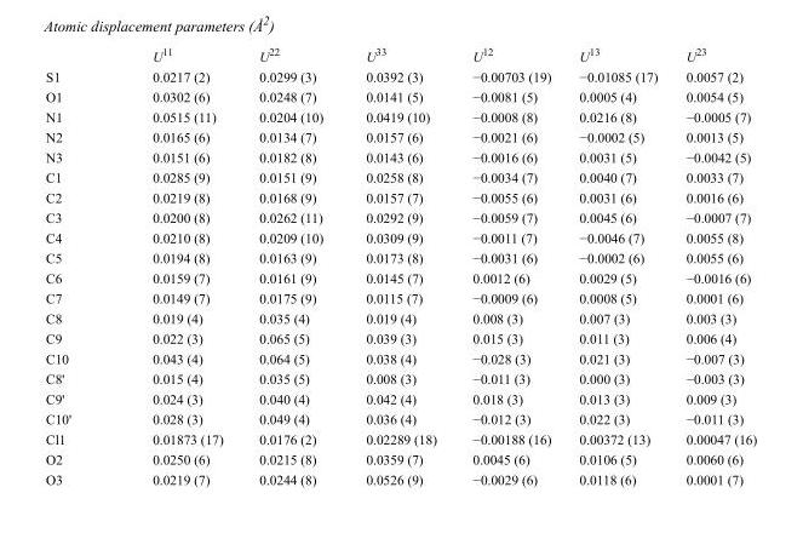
<table><thead><tr><td></td><td>U<sup>11</sup></td><td>U<sup>22</sup></td><td>U<sup>33</sup></td><td>U<sup>12</sup></td><td>U<sup>13</sup></td><td>U<sup>23</sup></td></tr></thead><tbody><tr><td>S1</td><td>0.0217 (2)</td><td>0.0299 (3)</td><td>0.0392 (3)</td><td>−0.00703 (19)</td><td>−0.01085 (17)</td><td>0.0057 (2)</td></tr><tr><td>O1</td><td>0.0302 (6)</td><td>0.0248 (7)</td><td>0.0141 (5)</td><td>−0.0081 (5)</td><td>0.0005 (4)</td><td>0.0054 (5)</td></tr><tr><td>N1</td><td>0.0515 (11)</td><td>0.0204 (10)</td><td>0.0419 (10)</td><td>−0.0008 (8)</td><td>0.0216 (8)</td><td>−0.0005 (7)</td></tr><tr><td>N2</td><td>0.0165 (6)</td><td>0.0134 (7)</td><td>0.0157 (6)</td><td>−0.0021 (6)</td><td>−0.0002 (5)</td><td>0.0013 (5)</td></tr><tr><td>N3</td><td>0.0151 (6)</td><td>0.0182 (8)</td><td>0.0143 (6)</td><td>−0.0016 (6)</td><td>0.0031 (5)</td><td>−0.0042 (5)</td></tr><tr><td>C1</td><td>0.0285 (9)</td><td>0.0151 (9)</td><td>0.0258 (8)</td><td>−0.0034 (7)</td><td>0.0040 (7)</td><td>0.0033 (7)</td></tr><tr><td>C2</td><td>0.0219 (8)</td><td>0.0168 (9)</td><td>0.0157 (7)</td><td>−0.0055 (6)</td><td>0.0031 (6)</td><td>0.0016 (6)</td></tr><tr><td>C3</td><td>0.0200 (8)</td><td>0.0262 (11)</td><td>0.0292 (9)</td><td>−0.0059 (7)</td><td>0.0045 (6)</td><td>−0.0007 (7)</td></tr><tr><td>C4</td><td>0.0210 (8)</td><td>0.0209 (10)</td><td>0.0309 (9)</td><td>−0.0011 (7)</td><td>−0.0046 (7)</td><td>0.0055 (8)</td></tr><tr><td>C5</td><td>0.0194 (8)</td><td>0.0163 (9)</td><td>0.0173 (8)</td><td>−0.0031 (6)</td><td>−0.0002 (6)</td><td>0.0055 (6)</td></tr><tr><td>C6</td><td>0.0159 (7)</td><td>0.0161 (9)</td><td>0.0145 (7)</td><td>0.0012 (6)</td><td>0.0029 (5)</td><td>−0.0016 (6)</td></tr><tr><td>C7</td><td>0.0149 (7)</td><td>0.0175 (9)</td><td>0.0115 (7)</td><td>−0.0009 (6)</td><td>0.0008 (5)</td><td>0.0001 (6)</td></tr><tr><td>C8</td><td>0.019 (4)</td><td>0.035 (4)</td><td>0.019 (4)</td><td>0.008 (3)</td><td>0.007 (3)</td><td>0.003 (3)</td></tr><tr><td>C9</td><td>0.022 (3)</td><td>0.065 (5)</td><td>0.039 (3)</td><td>0.015 (3)</td><td>0.011 (3)</td><td>0.006 (4)</td></tr><tr><td>C10</td><td>0.043 (4)</td><td>0.064 (5)</td><td>0.038 (4)</td><td>−0.028 (3)</td><td>0.021 (3)</td><td>−0.007 (3)</td></tr><tr><td>C8&#x27;</td><td>0.015 (4)</td><td>0.035 (5)</td><td>0.008 (3)</td><td>−0.011 (3)</td><td>0.000 (3)</td><td>−0.003 (3)</td></tr><tr><td>C9&#x27;</td><td>0.024 (3)</td><td>0.040 (4)</td><td>0.042 (4)</td><td>0.018 (3)</td><td>0.013 (3)</td><td>0.009 (3)</td></tr><tr><td>C10&#x27;</td><td>0.028 (3)</td><td>0.049 (4)</td><td>0.036 (4)</td><td>−0.012 (3)</td><td>0.022 (3)</td><td>−0.011 (3)</td></tr><tr><td>Cl1</td><td>0.01873 (17)</td><td>0.0176 (2)</td><td>0.02289 (18)</td><td>−0.00188 (16)</td><td>0.00372 (13)</td><td>0.00047 (16)</td></tr><tr><td>O2</td><td>0.0250 (6)</td><td>0.0215 (8)</td><td>0.0359 (7)</td><td>0.0045 (6)</td><td>0.0106 (5)</td><td>0.0060 (6)</td></tr><tr><td>O3</td><td>0.0219 (7)</td><td>0.0244 (8)</td><td>0.0526 (9)</td><td>−0.0029 (6)</td><td>0.0118 (6)</td><td>0.0001 (7)</td></tr></tbody></table>